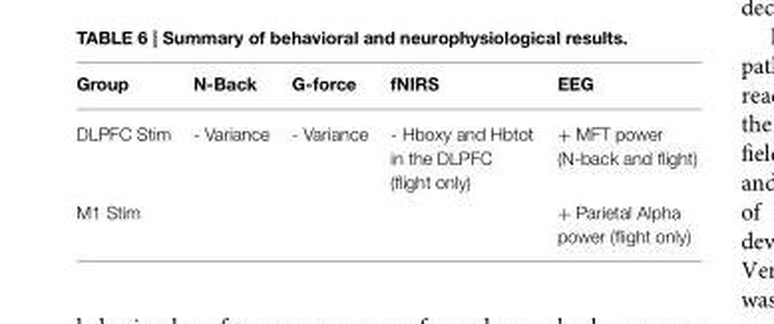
<table><thead><tr><td>Group</td><td>N-Back</td><td>G-force</td><td>fNIRS</td><td>EEG</td></tr></thead><tbody><tr><td>DLPFC Stim</td><td>- Variance</td><td>- Variance</td><td>- Hboxy and Hbtot in the DLPFC (flight only)</td><td>+ MFT power (N-back and flight)</td></tr><tr><td>M1 Stim</td><td></td><td></td><td></td><td>+ Parietal Alpha power (flight only)</td></tr></tbody></table>